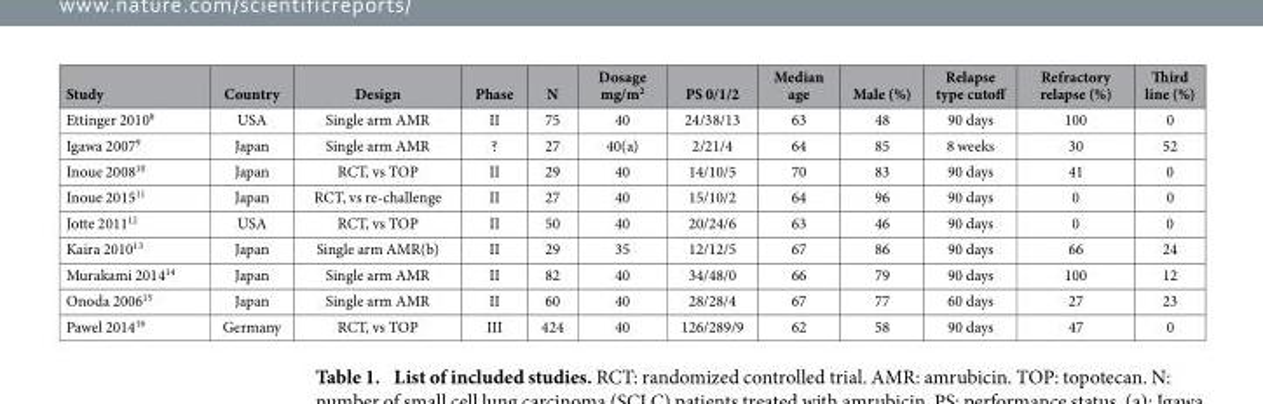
<table><thead><tr><td>Study</td><td>Country</td><td>Design</td><td>Phase</td><td>N</td><td>Dosage mg/m<sup>2</sup></td><td>PS 0/1/2</td><td>Median age</td><td>Male (%)</td><td>Relapse type cutoff</td><td>Refractory relapse (%)</td><td>Third line (%)</td></tr></thead><tbody><tr><td>Ettinger 2010<sup>8</sup></td><td>USA</td><td>Single arm AMR</td><td>II</td><td>75</td><td>40</td><td>24/38/13</td><td>63</td><td>48</td><td>90 days</td><td>100</td><td>0</td></tr><tr><td>Igawa 2007<sup>9</sup></td><td>Japan</td><td>Single arm AMR</td><td>?</td><td>27</td><td>40(a)</td><td>2/21/4</td><td>64</td><td>85</td><td>8 weeks</td><td>30</td><td>52</td></tr><tr><td>Inoue 2008<sup>10</sup></td><td>Japan</td><td>RCT, vs TOP</td><td>II</td><td>29</td><td>40</td><td>14/10/5</td><td>70</td><td>83</td><td>90 days</td><td>41</td><td>0</td></tr><tr><td>Inoue 2015<sup>11</sup></td><td>Japan</td><td>RCT, vs re-challenge</td><td>II</td><td>27</td><td>40</td><td>15/10/2</td><td>64</td><td>96</td><td>90 days</td><td>0</td><td>0</td></tr><tr><td>Jotte 2011<sup>12</sup></td><td>USA</td><td>RCT, vs TOP</td><td>II</td><td>50</td><td>40</td><td>20/24/6</td><td>63</td><td>46</td><td>90 days</td><td>0</td><td>0</td></tr><tr><td>Kaira 2010<sup>13</sup></td><td>Japan</td><td>Single arm AMR(b)</td><td>II</td><td>29</td><td>35</td><td>12/12/5</td><td>67</td><td>86</td><td>90 days</td><td>66</td><td>24</td></tr><tr><td>Murakami 2014<sup>14</sup></td><td>Japan</td><td>Single arm AMR</td><td>II</td><td>82</td><td>40</td><td>34/48/0</td><td>66</td><td>79</td><td>90 days</td><td>100</td><td>12</td></tr><tr><td>Onoda 2006<sup>15</sup></td><td>Japan</td><td>Single arm AMR</td><td>II</td><td>60</td><td>40</td><td>28/28/4</td><td>67</td><td>77</td><td>60 days</td><td>27</td><td>23</td></tr><tr><td>Pawel 2014<sup>16</sup></td><td>Germany</td><td>RCT, vs TOP</td><td>III</td><td>424</td><td>40</td><td>126/289/9</td><td>62</td><td>58</td><td>90 days</td><td>47</td><td>0</td></tr></tbody></table>